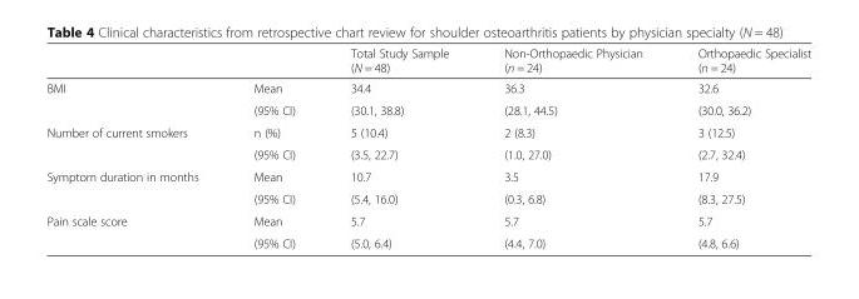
<table><thead><tr><td></td><td></td><td>Total Study Sample (N = 48)</td><td>Non-Orthopaedic Physician (n = 24)</td><td>Orthopaedic Specialist (n = 24)</td></tr></thead><tbody><tr><td rowspan="2">BMI</td><td>Mean</td><td>34.4</td><td>36.3</td><td>32.6</td></tr><tr><td>(95% CI)</td><td>(30.1, 38.8)</td><td>(28.1, 44.5)</td><td>(30.0, 36.2)</td></tr><tr><td rowspan="2">Number of current smokers</td><td>n (%)</td><td>5 (10.4)</td><td>2 (8.3)</td><td>3 (12.5)</td></tr><tr><td>(95% CI)</td><td>(3.5, 22.7)</td><td>(1.0, 27.0)</td><td>(2.7, 32.4)</td></tr><tr><td rowspan="2">Symptom duration in months</td><td>Mean</td><td>10.7</td><td>3.5</td><td>17.9</td></tr><tr><td>(95% CI)</td><td>(5.4, 16.0)</td><td>(0.3, 6.8)</td><td>(8.3, 27.5)</td></tr><tr><td rowspan="2">Pain scale score</td><td>Mean</td><td>5.7</td><td>5.7</td><td>5.7</td></tr><tr><td>(95% CI)</td><td>(5.0, 6.4)</td><td>(4.4, 7.0)</td><td>(4.8, 6.6)</td></tr></tbody></table>